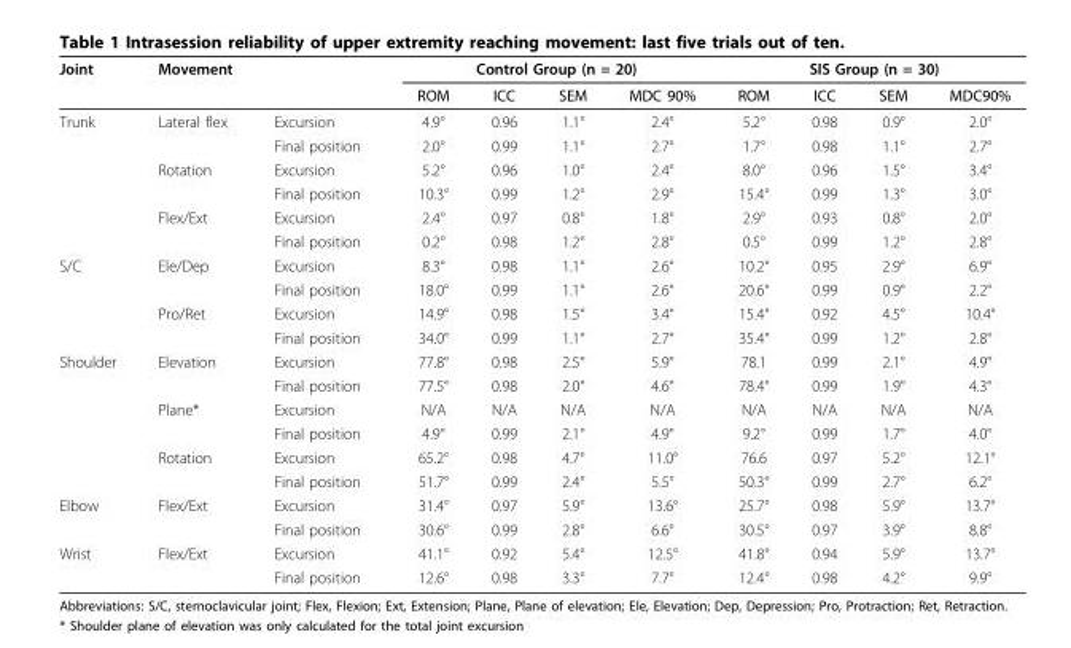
<table><thead><tr><td rowspan="2">Joint</td><td rowspan="2">Movement</td><td rowspan="2"></td><td colspan="4">Control Group (n = 20)</td><td colspan="4">SIS Group (n = 30)</td></tr><tr><td>ROM</td><td>ICC</td><td>SEM</td><td>MDC 90%</td><td>ROM</td><td>ICC</td><td>SEM</td><td>MDC90%</td></tr></thead><tbody><tr><td rowspan="6">Trunk</td><td>Lateral flex</td><td>Excursion</td><td>4.9°</td><td>0.96</td><td>1.1°</td><td>2.4°</td><td>5.2°</td><td>0.98</td><td>0.9°</td><td>2.0°</td></tr><tr><td></td><td>Final position</td><td>2.0°</td><td>0.99</td><td>1.1°</td><td>2.7°</td><td>1.7°</td><td>0.98</td><td>1.1°</td><td>2.7°</td></tr><tr><td>Rotation</td><td>Excursion</td><td>5.2°</td><td>0.96</td><td>1.0°</td><td>2.4°</td><td>8.0°</td><td>0.96</td><td>1.5°</td><td>3.4°</td></tr><tr><td></td><td>Final position</td><td>10.3°</td><td>0.99</td><td>1.2°</td><td>2.9°</td><td>15.4°</td><td>0.99</td><td>1.3°</td><td>3.0°</td></tr><tr><td>Flex/Ext</td><td>Excursion</td><td>2.4°</td><td>0.97</td><td>0.8°</td><td>1.8°</td><td>2.9°</td><td>0.93</td><td>0.8°</td><td>2.0°</td></tr><tr><td></td><td>Final position</td><td>0.2°</td><td>0.98</td><td>1.2°</td><td>2.8°</td><td>0.5°</td><td>0.99</td><td>1.2°</td><td>2.8°</td></tr><tr><td rowspan="4">S/C</td><td>Ele/Dep</td><td>Excursion</td><td>8.3°</td><td>0.98</td><td>1.1°</td><td>2.6°</td><td>10.2°</td><td>0.95</td><td>2.9°</td><td>6.9°</td></tr><tr><td></td><td>Final position</td><td>18.0°</td><td>0.99</td><td>1.1°</td><td>2.6°</td><td>20.6°</td><td>0.99</td><td>0.9°</td><td>2.2°</td></tr><tr><td>Pro/Ret</td><td>Excursion</td><td>14.9°</td><td>0.98</td><td>1.5°</td><td>3.4°</td><td>15.4°</td><td>0.92</td><td>4.5°</td><td>10.4°</td></tr><tr><td></td><td>Final position</td><td>34.0°</td><td>0.99</td><td>1.1°</td><td>2.7°</td><td>35.4°</td><td>0.99</td><td>1.2°</td><td>2.8°</td></tr><tr><td rowspan="6">Shoulder</td><td>Elevation</td><td>Excursion</td><td>77.8°</td><td>0.98</td><td>2.5°</td><td>5.9°</td><td>78.1</td><td>0.99</td><td>2.1°</td><td>4.9°</td></tr><tr><td></td><td>Final position</td><td>77.5°</td><td>0.98</td><td>2.0°</td><td>4.6°</td><td>78.4°</td><td>0.99</td><td>1.9°</td><td>4.3°</td></tr><tr><td>Plane*</td><td>Excursion</td><td>N/A</td><td>N/A</td><td>N/A</td><td>N/A</td><td>N/A</td><td>N/A</td><td>N/A</td><td>N/A</td></tr><tr><td></td><td>Final position</td><td>4.9°</td><td>0.99</td><td>2.1°</td><td>4.9°</td><td>9.2°</td><td>0.99</td><td>1.7°</td><td>4.0°</td></tr><tr><td>Rotation</td><td>Excursion</td><td>65.2°</td><td>0.98</td><td>4.7°</td><td>11.0°</td><td>76.6</td><td>0.97</td><td>5.2°</td><td>12.1°</td></tr><tr><td></td><td>Final position</td><td>51.7°</td><td>0.99</td><td>2.4°</td><td>5.5°</td><td>50.3°</td><td>0.99</td><td>2.7°</td><td>6.2°</td></tr><tr><td rowspan="2">Elbow</td><td>Flex/Ext</td><td>Excursion</td><td>31.4°</td><td>0.97</td><td>5.9°</td><td>13.6°</td><td>25.7°</td><td>0.98</td><td>5.9°</td><td>13.7°</td></tr><tr><td></td><td>Final position</td><td>30.6°</td><td>0.99</td><td>2.8°</td><td>6.6°</td><td>30.5°</td><td>0.97</td><td>3.9°</td><td>8.8°</td></tr><tr><td rowspan="2">Wrist</td><td>Flex/Ext</td><td>Excursion</td><td>41.1°</td><td>0.92</td><td>5.4°</td><td>12.5°</td><td>41.8°</td><td>0.94</td><td>5.9°</td><td>13.7°</td></tr><tr><td></td><td>Final position</td><td>12.6°</td><td>0.98</td><td>3.3°</td><td>7.7°</td><td>12.4°</td><td>0.98</td><td>4.2°</td><td>9.9°</td></tr></tbody></table>